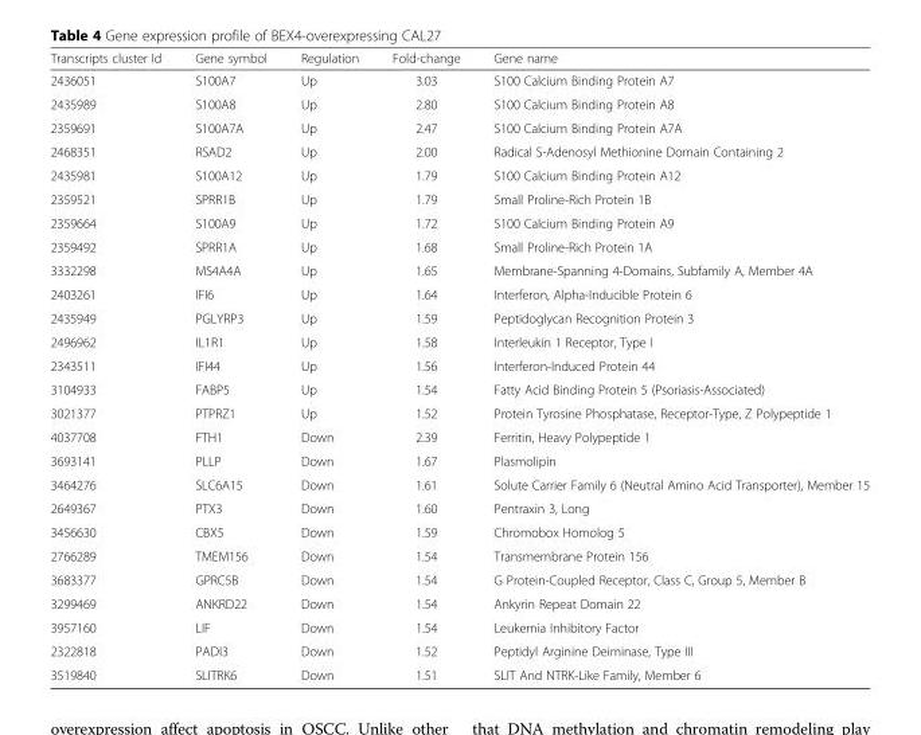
<table><thead><tr><td>Transcripts cluster Id</td><td>Gene symbol</td><td>Regulation</td><td>Fold-change</td><td>Gene name</td></tr></thead><tbody><tr><td>2436051</td><td>S100A7</td><td>Up</td><td>3.03</td><td>S100 Calcium Binding Protein A7</td></tr><tr><td>2435989</td><td>S100A8</td><td>Up</td><td>2.80</td><td>S100 Calcium Binding Protein A8</td></tr><tr><td>2359691</td><td>S100A7A</td><td>Up</td><td>2.47</td><td>S100 Calcium Binding Protein A7A</td></tr><tr><td>2468351</td><td>RSAD2</td><td>Up</td><td>2.00</td><td>Radical S-Adenosyl Methionine Domain Containing 2</td></tr><tr><td>2435981</td><td>S100A12</td><td>Up</td><td>1.79</td><td>S100 Calcium Binding Protein A12</td></tr><tr><td>2359521</td><td>SPRR1B</td><td>Up</td><td>1.79</td><td>Small Proline-Rich Protein 1B</td></tr><tr><td>2359664</td><td>S100A9</td><td>Up</td><td>1.72</td><td>S100 Calcium Binding Protein A9</td></tr><tr><td>2359492</td><td>SPRR1A</td><td>Up</td><td>1.68</td><td>Small Proline-Rich Protein 1A</td></tr><tr><td>3332298</td><td>MS4A4A</td><td>Up</td><td>1.65</td><td>Membrane-Spanning 4-Domains, Subfamily A, Member 4A</td></tr><tr><td>2403261</td><td>IFI6</td><td>Up</td><td>1.64</td><td>Interferon, Alpha-Inducible Protein 6</td></tr><tr><td>2435949</td><td>PGLYRP3</td><td>Up</td><td>1.59</td><td>Peptidoglycan Recognition Protein 3</td></tr><tr><td>2496962</td><td>IL1R1</td><td>Up</td><td>1.58</td><td>Interleukin 1 Receptor, Type I</td></tr><tr><td>2343511</td><td>IFI44</td><td>Up</td><td>1.56</td><td>Interferon-Induced Protein 44</td></tr><tr><td>3104933</td><td>FABP5</td><td>Up</td><td>1.54</td><td>Fatty Acid Binding Protein 5 (Psoriasis-Associated)</td></tr><tr><td>3021377</td><td>PTPRZ1</td><td>Up</td><td>1.52</td><td>Protein Tyrosine Phosphatase, Receptor-Type, Z Polypeptide 1</td></tr><tr><td>4037708</td><td>FTH1</td><td>Down</td><td>2.39</td><td>Ferritin, Heavy Polypeptide 1</td></tr><tr><td>3693141</td><td>PLLP</td><td>Down</td><td>1.67</td><td>Plasmolipin</td></tr><tr><td>3464276</td><td>SLC6A15</td><td>Down</td><td>1.61</td><td>Solute Carrier Family 6 (Neutral Amino Acid Transporter), Member 15</td></tr><tr><td>2649367</td><td>PTX3</td><td>Down</td><td>1.60</td><td>Pentraxin 3, Long</td></tr><tr><td>3456630</td><td>CBX5</td><td>Down</td><td>1.59</td><td>Chromobox Homolog 5</td></tr><tr><td>2766289</td><td>TMEM156</td><td>Down</td><td>1.54</td><td>Transmembrane Protein 156</td></tr><tr><td>3683377</td><td>GPRC5B</td><td>Down</td><td>1.54</td><td>G Protein-Coupled Receptor, Class C, Group 5, Member B</td></tr><tr><td>3299469</td><td>ANKRD22</td><td>Down</td><td>1.54</td><td>Ankyrin Repeat Domain 22</td></tr><tr><td>3957160</td><td>LIF</td><td>Down</td><td>1.54</td><td>Leukemia Inhibitory Factor</td></tr><tr><td>2322818</td><td>PADI3</td><td>Down</td><td>1.52</td><td>Peptidyl Arginine Deiminase, Type III</td></tr><tr><td>3519840</td><td>SLITRK6</td><td>Down</td><td>1.51</td><td>SLIT And NTRK-Like Family, Member 6</td></tr></tbody></table>